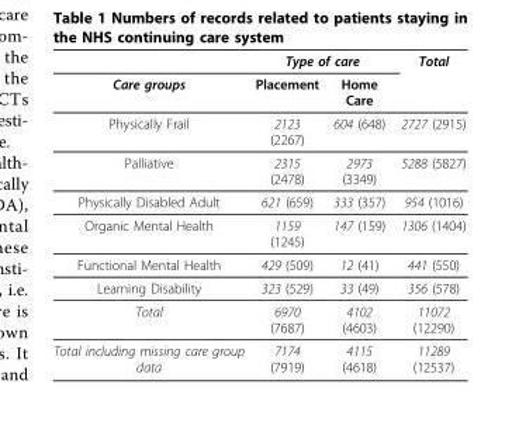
<table><thead><tr><td rowspan="2">Care groups</td><td colspan="2">Type of care</td><td rowspan="2">Total</td></tr><tr><td>Placement</td><td>Home Care</td></tr></thead><tbody><tr><td>Physically Frail</td><td>2123 (2267)</td><td>604 (648)</td><td>2727 (2915)</td></tr><tr><td>Palliative</td><td>2315 (2478)</td><td>2973 (3349)</td><td>5288 (5827)</td></tr><tr><td>Physically Disabled Adult</td><td>621 (659)</td><td>333 (357)</td><td>954 (1016)</td></tr><tr><td>Organic Mental Health</td><td>1159 (1245)</td><td>147 (159)</td><td>1306 (1404)</td></tr><tr><td>Functional Mental Health</td><td>429 (509)</td><td>12 (41)</td><td>441 (550)</td></tr><tr><td>Learning Disability</td><td>323 (529)</td><td>33 (49)</td><td>356 (578)</td></tr><tr><td>Total</td><td>6970 (7687)</td><td>4102 (4603)</td><td>11072 (12290)</td></tr><tr><td>Total including missing care group data</td><td>7174 (7919)</td><td>4115 (4618)</td><td>11289 (12537)</td></tr></tbody></table>